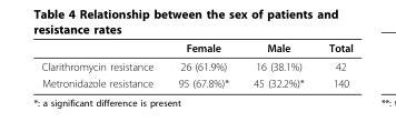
<table><thead><tr><td></td><td>Female</td><td>Male</td><td>Total</td></tr></thead><tbody><tr><td>Clarithromycin resistance</td><td>26 (61.9%)</td><td>16 (38.1%)</td><td>42</td></tr><tr><td>Metronidazole resistance</td><td>95 (67.8%)*</td><td>45 (32.2%)*</td><td>140</td></tr></tbody></table>